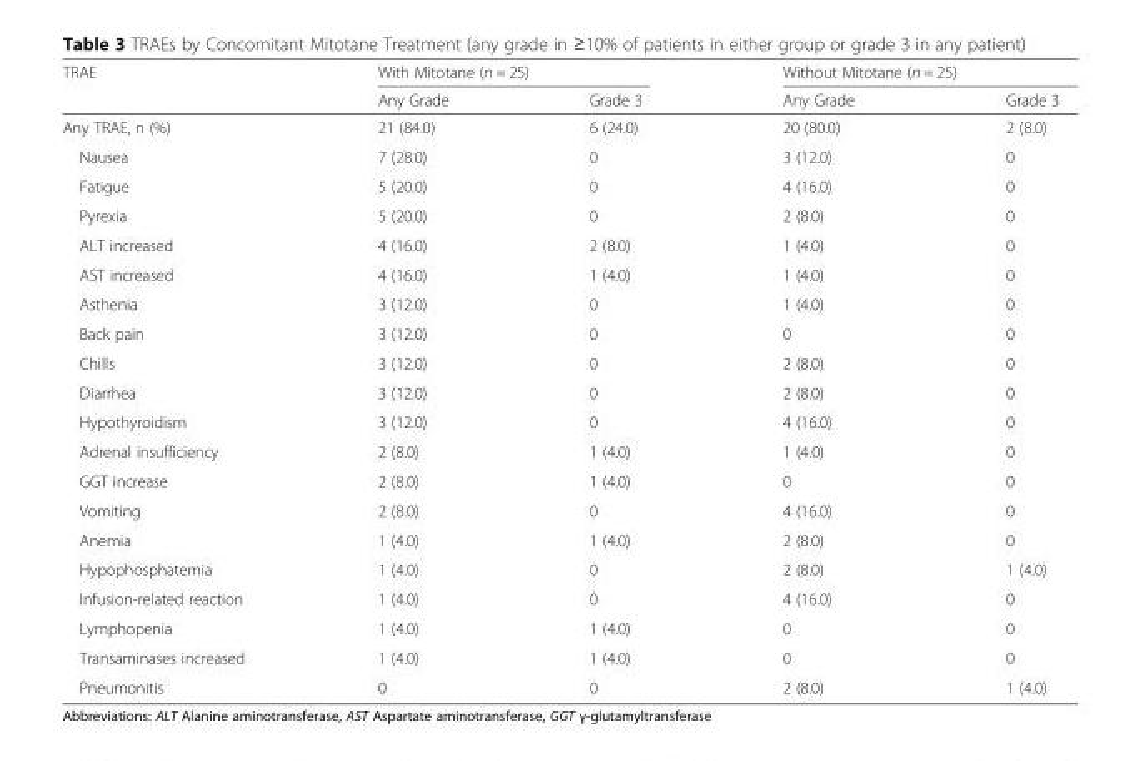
<table><thead><tr><td rowspan="2">TRAE</td><td colspan="2">With Mitotane (n = 25)</td><td colspan="2">Without Mitotane (n = 25)</td></tr><tr><td>Any Grade</td><td>Grade 3</td><td>Any Grade</td><td>Grade 3</td></tr></thead><tbody><tr><td>Any TRAE, n (%)</td><td>21 (84.0)</td><td>6 (24.0)</td><td>20 (80.0)</td><td>2 (8.0)</td></tr><tr><td>Nausea</td><td>7 (28.0)</td><td>0</td><td>3 (12.0)</td><td>0</td></tr><tr><td>Fatigue</td><td>5 (20.0)</td><td>0</td><td>4 (16.0)</td><td>0</td></tr><tr><td>Pyrexia</td><td>5 (20.0)</td><td>0</td><td>2 (8.0)</td><td>0</td></tr><tr><td>ALT increased</td><td>4 (16.0)</td><td>2 (8.0)</td><td>1 (4.0)</td><td>0</td></tr><tr><td>AST increased</td><td>4 (16.0)</td><td>1 (4.0)</td><td>1 (4.0)</td><td>0</td></tr><tr><td>Asthenia</td><td>3 (12.0)</td><td>0</td><td>1 (4.0)</td><td>0</td></tr><tr><td>Back pain</td><td>3 (12.0)</td><td>0</td><td>0</td><td>0</td></tr><tr><td>Chills</td><td>3 (12.0)</td><td>0</td><td>2 (8.0)</td><td>0</td></tr><tr><td>Diarrhea</td><td>3 (12.0)</td><td>0</td><td>2 (8.0)</td><td>0</td></tr><tr><td>Hypothyroidism</td><td>3 (12.0)</td><td>0</td><td>4 (16.0)</td><td>0</td></tr><tr><td>Adrenal insufficiency</td><td>2 (8.0)</td><td>1 (4.0)</td><td>1 (4.0)</td><td>0</td></tr><tr><td>GGT increase</td><td>2 (8.0)</td><td>1 (4.0)</td><td>0</td><td>0</td></tr><tr><td>Vomiting</td><td>2 (8.0)</td><td>0</td><td>4 (16.0)</td><td>0</td></tr><tr><td>Anemia</td><td>1 (4.0)</td><td>1 (4.0)</td><td>2 (8.0)</td><td>0</td></tr><tr><td>Hypophosphatemia</td><td>1 (4.0)</td><td>0</td><td>2 (8.0)</td><td>1 (4.0)</td></tr><tr><td>Infusion-related reaction</td><td>1 (4.0)</td><td>0</td><td>4 (16.0)</td><td>0</td></tr><tr><td>Lymphopenia</td><td>1 (4.0)</td><td>1 (4.0)</td><td>0</td><td>0</td></tr><tr><td>Transaminases increased</td><td>1 (4.0)</td><td>1 (4.0)</td><td>0</td><td>0</td></tr><tr><td>Pneumonitis</td><td>0</td><td>0</td><td>2 (8.0)</td><td>1 (4.0)</td></tr></tbody></table>